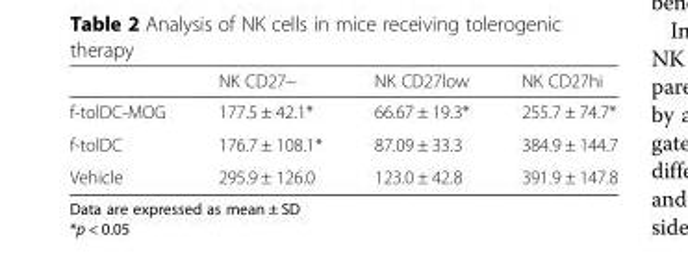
<table><thead><tr><td></td><td>NK CD27−</td><td>NK CD27low</td><td>NK CD27hi</td></tr></thead><tbody><tr><td>f-tolDC-MOG</td><td>177.5 ± 42.1*</td><td>66.67 ± 19.3*</td><td>255.7 ± 74.7*</td></tr><tr><td>f-tolDC</td><td>176.7 ± 108.1*</td><td>87.09 ± 33.3</td><td>384.9 ± 144.7</td></tr><tr><td>Vehicle</td><td>295.9 ± 126.0</td><td>123.0 ± 42.8</td><td>391.9 ± 147.8</td></tr></tbody></table>